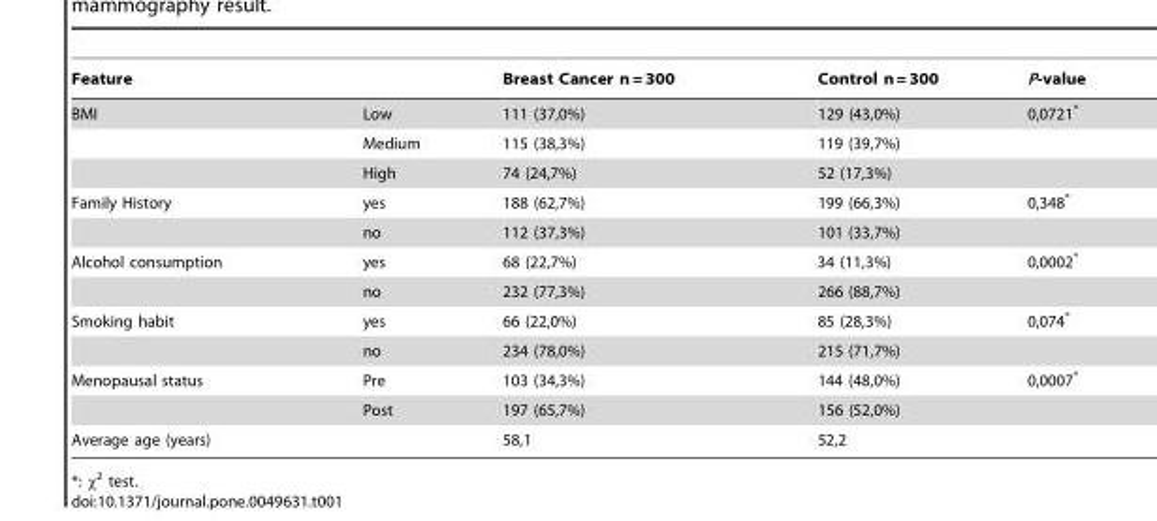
<table><thead><tr><td>Feature</td><td></td><td>Breast Cancer n = 300</td><td>Control n = 300</td><td>P-value</td></tr></thead><tbody><tr><td rowspan="3">BMI</td><td>Low</td><td>111 (37,0%)</td><td>129 (43,0%)</td><td>0,0721*</td></tr><tr><td>Medium</td><td>115 (38,3%)</td><td>119 (39,7%)</td><td></td></tr><tr><td>High</td><td>74 (24,7%)</td><td>52 (17,3%)</td><td></td></tr><tr><td rowspan="2">Family History</td><td>yes</td><td>188 (62,7%)</td><td>199 (66,3%)</td><td>0,348*</td></tr><tr><td>no</td><td>112 (37,3%)</td><td>101 (33,7%)</td><td></td></tr><tr><td rowspan="2">Alcohol consumption</td><td>yes</td><td>68 (22,7%)</td><td>34 (11,3%)</td><td>0,0002*</td></tr><tr><td>no</td><td>232 (77,3%)</td><td>266 (88,7%)</td><td></td></tr><tr><td rowspan="2">Smoking habit</td><td>yes</td><td>66 (22,0%)</td><td>85 (28,3%)</td><td>0,074*</td></tr><tr><td>no</td><td>234 (78,0%)</td><td>215 (71,7%)</td><td></td></tr><tr><td rowspan="2">Menopausal status</td><td>Pre</td><td>103 (34,3%)</td><td>144 (48,0%)</td><td>0,0007*</td></tr><tr><td>Post</td><td>197 (65,7%)</td><td>156 (52,0%)</td><td></td></tr><tr><td>Average age (years)</td><td></td><td>58,1</td><td>52,2</td><td></td></tr></tbody></table>